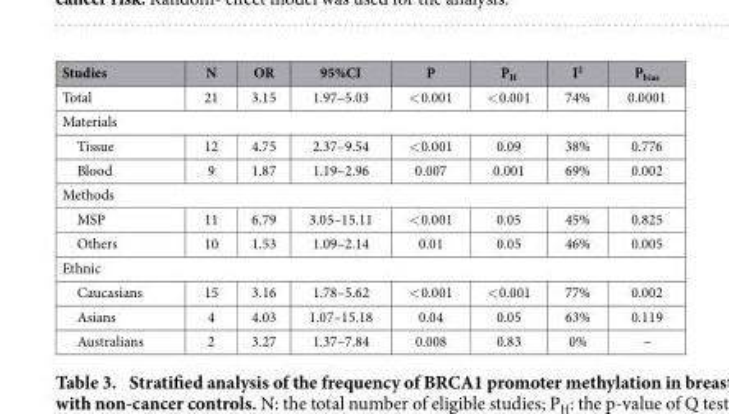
<table><thead><tr><td>Studies</td><td>N</td><td>OR</td><td>95%CI</td><td>P</td><td>P<sub>H</sub></td><td>I<sup>2</sup></td><td>P<sub>bias</sub></td></tr></thead><tbody><tr><td>Total</td><td>21</td><td>3.15</td><td>1.97–5.03</td><td>&lt; 0.001</td><td>&lt; 0.001</td><td>74%</td><td>0.0001</td></tr><tr><td colspan="8">Materials</td></tr><tr><td>Tissue</td><td>12</td><td>4.75</td><td>2.37–9.54</td><td>&lt; 0.001</td><td>0.09</td><td>38%</td><td>0.776</td></tr><tr><td>Blood</td><td>9</td><td>1.87</td><td>1.19–2.96</td><td>0.007</td><td>0.001</td><td>69%</td><td>0.002</td></tr><tr><td colspan="8">Methods</td></tr><tr><td>MSP</td><td>11</td><td>6.79</td><td>3.05–15.11</td><td>&lt; 0.001</td><td>0.05</td><td>45%</td><td>0.825</td></tr><tr><td>Others</td><td>10</td><td>1.53</td><td>1.09–2.14</td><td>0.01</td><td>0.05</td><td>46%</td><td>0.005</td></tr><tr><td colspan="8">Ethnic</td></tr><tr><td>Caucasians</td><td>15</td><td>3.16</td><td>1.78–5.62</td><td>&lt; 0.001</td><td>&lt; 0.001</td><td>77%</td><td>0.002</td></tr><tr><td>Asians</td><td>4</td><td>4.03</td><td>1.07–15.18</td><td>0.04</td><td>0.05</td><td>63%</td><td>0.119</td></tr><tr><td>Australians</td><td>2</td><td>3.27</td><td>1.37–7.84</td><td>0.008</td><td>0.83</td><td>0%</td><td>–</td></tr></tbody></table>